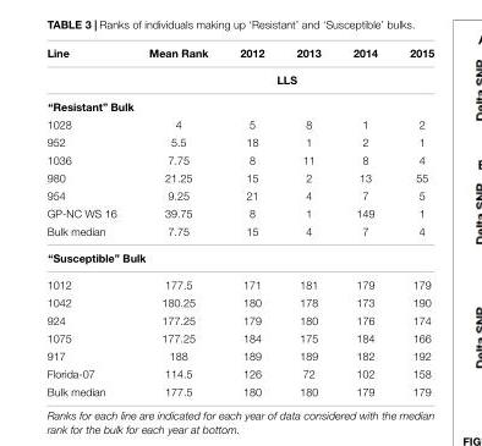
<table><thead><tr><td>Line</td><td>Mean Rank</td><td>2012</td><td>2013</td><td>2014</td><td>2015</td></tr></thead><tbody><tr><td></td><td colspan="5">LLS</td></tr><tr><td colspan="6">“Resistant” Bulk</td></tr><tr><td>1028</td><td>4</td><td>5</td><td>8</td><td>1</td><td>2</td></tr><tr><td>952</td><td>5.5</td><td>18</td><td>1</td><td>2</td><td>1</td></tr><tr><td>1036</td><td>7.75</td><td>8</td><td>11</td><td>8</td><td>4</td></tr><tr><td>980</td><td>21.25</td><td>15</td><td>2</td><td>13</td><td>55</td></tr><tr><td>954</td><td>9.25</td><td>21</td><td>4</td><td>7</td><td>5</td></tr><tr><td>GP-NC WS 16</td><td>39.75</td><td>8</td><td>1</td><td>149</td><td>1</td></tr><tr><td>Bulk median</td><td>7.75</td><td>15</td><td>4</td><td>7</td><td>4</td></tr><tr><td colspan="6">“Susceptible” Bulk</td></tr><tr><td>1012</td><td>177.5</td><td>171</td><td>181</td><td>179</td><td>179</td></tr><tr><td>1042</td><td>180.25</td><td>180</td><td>178</td><td>173</td><td>190</td></tr><tr><td>924</td><td>177.25</td><td>179</td><td>180</td><td>176</td><td>174</td></tr><tr><td>1075</td><td>177.25</td><td>184</td><td>175</td><td>184</td><td>166</td></tr><tr><td>917</td><td>188</td><td>189</td><td>189</td><td>182</td><td>192</td></tr><tr><td>Florida-07</td><td>114.5</td><td>126</td><td>72</td><td>102</td><td>158</td></tr><tr><td>Bulk median</td><td>177.5</td><td>180</td><td>180</td><td>179</td><td>179</td></tr></tbody></table>